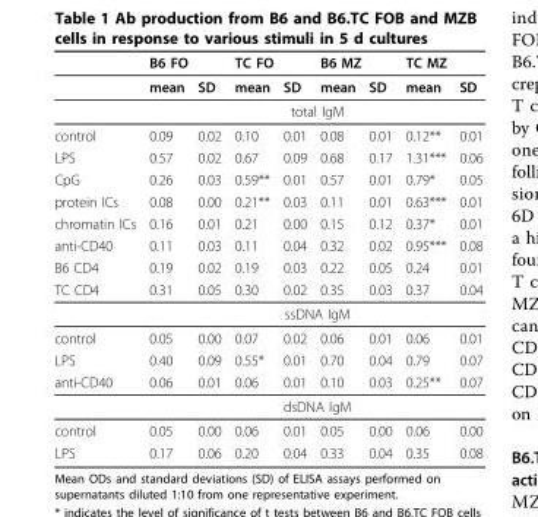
<table><thead><tr><td rowspan="2"></td><td colspan="2">B6 FO</td><td colspan="2">TC FO</td><td colspan="2">B6 MZ</td><td colspan="2">TC MZ</td></tr><tr><td>mean</td><td>SD</td><td>mean</td><td>SD</td><td>mean</td><td>SD</td><td>mean</td><td>SD</td></tr></thead><tbody><tr><td></td><td colspan="8">total IgM</td></tr><tr><td>control</td><td>0.09</td><td>0.02</td><td>0.10</td><td>0.01</td><td>0.08</td><td>0.01</td><td>0.12**</td><td>0.01</td></tr><tr><td>LPS</td><td>0.57</td><td>0.02</td><td>0.67</td><td>0.09</td><td>0.68</td><td>0.17</td><td>1.31***</td><td>0.06</td></tr><tr><td>CpG</td><td>0.26</td><td>0.03</td><td>0.59**</td><td>0.01</td><td>0.57</td><td>0.01</td><td>0.79*</td><td>0.05</td></tr><tr><td>protein ICs</td><td>0.08</td><td>0.00</td><td>0.21**</td><td>0.03</td><td>0.11</td><td>0.01</td><td>0.63***</td><td>0.01</td></tr><tr><td>chromatin ICs</td><td>0.16</td><td>0.01</td><td>0.21</td><td>0.00</td><td>0.15</td><td>0.12</td><td>0.37*</td><td>0.01</td></tr><tr><td>anti-CD40</td><td>0.11</td><td>0.03</td><td>0.11</td><td>0.04</td><td>0.32</td><td>0.02</td><td>0.95***</td><td>0.08</td></tr><tr><td>B6 CD4</td><td>0.19</td><td>0.02</td><td>0.19</td><td>0.03</td><td>0.22</td><td>0.05</td><td>0.24</td><td>0.01</td></tr><tr><td rowspan="2">TC CD4</td><td>0.31</td><td>0.05</td><td>0.30</td><td>0.02</td><td>0.35</td><td>0.03</td><td>0.37</td><td>0.04</td></tr><tr><td colspan="8">ssDNA IgM</td></tr><tr><td>control</td><td>0.05</td><td>0.00</td><td>0.07</td><td>0.02</td><td>0.06</td><td>0.01</td><td>0.06</td><td>0.01</td></tr><tr><td>LPS</td><td>0.40</td><td>0.09</td><td>0.55*</td><td>0.01</td><td>0.70</td><td>0.04</td><td>0.79</td><td>0.07</td></tr><tr><td rowspan="2">anti-CD40</td><td>0.06</td><td>0.01</td><td>0.06</td><td>0.01</td><td>0.10</td><td>0.03</td><td>0.25**</td><td>0.07</td></tr><tr><td colspan="8">dsDNA IgM</td></tr><tr><td>control</td><td>0.05</td><td>0.00</td><td>0.06</td><td>0.01</td><td>0.05</td><td>0.00</td><td>0.06</td><td>0.00</td></tr><tr><td>LPS</td><td>0.17</td><td>0.06</td><td>0.20</td><td>0.04</td><td>0.33</td><td>0.04</td><td>0.35</td><td>0.08</td></tr></tbody></table>